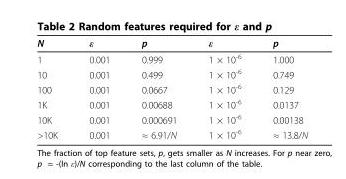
<table><thead><tr><td>N</td><td>ε</td><td>p</td><td>ε</td><td>p</td></tr></thead><tbody><tr><td>1</td><td>0.001</td><td>0.999</td><td>1 × 10<sup>-6</sup></td><td>1.000</td></tr><tr><td>10</td><td>0.001</td><td>0.499</td><td>1 × 10<sup>-6</sup></td><td>0.749</td></tr><tr><td>100</td><td>0.001</td><td>0.0667</td><td>1 × 10<sup>-6</sup></td><td>0.129</td></tr><tr><td>1K</td><td>0.001</td><td>0.00688</td><td>1 × 10<sup>-6</sup></td><td>0.0137</td></tr><tr><td>10K</td><td>0.001</td><td>0.000691</td><td>1 × 10<sup>-6</sup></td><td>0.00138</td></tr><tr><td>&gt;10K</td><td>0.001</td><td>≈ 6.91/N</td><td>1 × 10<sup>-6</sup></td><td>≈ 13.8/N</td></tr></tbody></table>